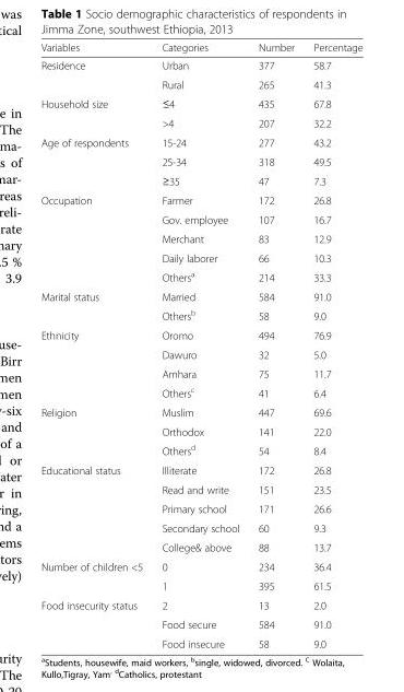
<table><thead><tr><td>Variables</td><td>Categories</td><td>Number</td><td>Percentage</td></tr></thead><tbody><tr><td rowspan="2">Residence</td><td>Urban</td><td>377</td><td>58.7</td></tr><tr><td>Rural</td><td>265</td><td>41.3</td></tr><tr><td rowspan="2">Household size</td><td>≤4</td><td>435</td><td>67.8</td></tr><tr><td>&gt;4</td><td>207</td><td>32.2</td></tr><tr><td rowspan="3">Age of respondents</td><td>15-24</td><td>277</td><td>43.2</td></tr><tr><td>25-34</td><td>318</td><td>49.5</td></tr><tr><td>≥35</td><td>47</td><td>7.3</td></tr><tr><td rowspan="5">Occupation</td><td>Farmer</td><td>172</td><td>26.8</td></tr><tr><td>Gov. employee</td><td>107</td><td>16.7</td></tr><tr><td>Merchant</td><td>83</td><td>12.9</td></tr><tr><td>Daily laborer</td><td>66</td><td>10.3</td></tr><tr><td>Others<sup>a</sup></td><td>214</td><td>33.3</td></tr><tr><td rowspan="2">Marital status</td><td>Married</td><td>584</td><td>91.0</td></tr><tr><td>Others<sup>b</sup></td><td>58</td><td>9.0</td></tr><tr><td rowspan="4">Ethnicity</td><td>Oromo</td><td>494</td><td>76.9</td></tr><tr><td>Dawuro</td><td>32</td><td>5.0</td></tr><tr><td>Amhara</td><td>75</td><td>11.7</td></tr><tr><td>Others<sup>c</sup></td><td>41</td><td>6.4</td></tr><tr><td rowspan="3">Religion</td><td>Muslim</td><td>447</td><td>69.6</td></tr><tr><td>Orthodox</td><td>141</td><td>22.0</td></tr><tr><td>Others<sup>d</sup></td><td>54</td><td>8.4</td></tr><tr><td rowspan="5">Educational status</td><td>Illiterate</td><td>172</td><td>26.8</td></tr><tr><td>Read and write</td><td>151</td><td>23.5</td></tr><tr><td>Primary school</td><td>171</td><td>26.6</td></tr><tr><td>Secondary school</td><td>60</td><td>9.3</td></tr><tr><td>College&amp; above</td><td>88</td><td>13.7</td></tr><tr><td rowspan="2">Number of children &lt;5</td><td>0</td><td>234</td><td>36.4</td></tr><tr><td>1</td><td>395</td><td>61.5</td></tr><tr><td rowspan="3">Food insecurity status</td><td>2</td><td>13</td><td>2.0</td></tr><tr><td>Food secure</td><td>584</td><td>91.0</td></tr><tr><td>Food insecure</td><td>58</td><td>9.0</td></tr></tbody></table>